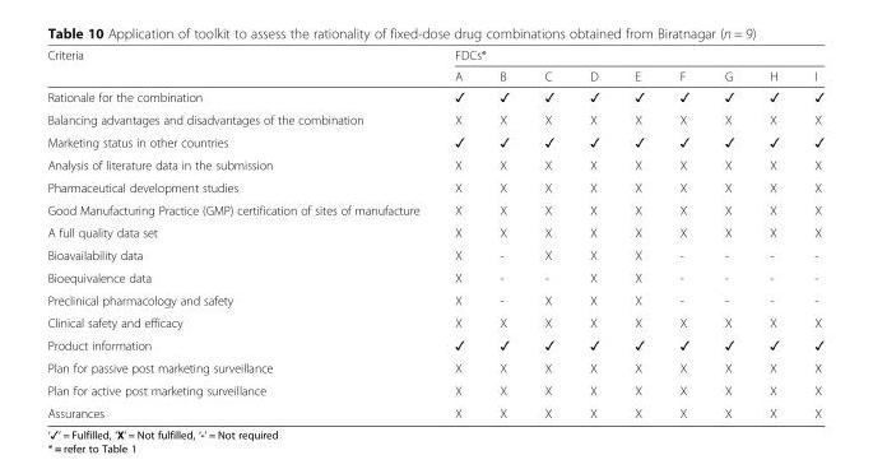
<table><thead><tr><td rowspan="2">Criteria</td><td colspan="9">FDCs*</td></tr><tr><td>A</td><td>B</td><td>C</td><td>D</td><td>E</td><td>F</td><td>G</td><td>H</td><td>I</td></tr></thead><tbody><tr><td>Rationale for the combination</td><td>✓</td><td>✓</td><td>✓</td><td>✓</td><td>✓</td><td>✓</td><td>✓</td><td>✓</td><td>✓</td></tr><tr><td>Balancing advantages and disadvantages of the combination</td><td>X</td><td>X</td><td>X</td><td>X</td><td>X</td><td>X</td><td>X</td><td>X</td><td>X</td></tr><tr><td>Marketing status in other countries</td><td>✓</td><td>✓</td><td>✓</td><td>✓</td><td>✓</td><td>✓</td><td>✓</td><td>✓</td><td>✓</td></tr><tr><td>Analysis of literature data in the submission</td><td>X</td><td>X</td><td>X</td><td>X</td><td>X</td><td>X</td><td>X</td><td>X</td><td>X</td></tr><tr><td>Pharmaceutical development studies</td><td>X</td><td>X</td><td>X</td><td>X</td><td>X</td><td>X</td><td>X</td><td>X</td><td>X</td></tr><tr><td>Good Manufacturing Practice (GMP) certification of sites of manufacture</td><td>X</td><td>X</td><td>X</td><td>X</td><td>X</td><td>X</td><td>X</td><td>X</td><td>X</td></tr><tr><td>A full quality data set</td><td>X</td><td>X</td><td>X</td><td>X</td><td>X</td><td>X</td><td>X</td><td>X</td><td>X</td></tr><tr><td>Bioavailability data</td><td>X</td><td>-</td><td>X</td><td>X</td><td>X</td><td>-</td><td>-</td><td>-</td><td>-</td></tr><tr><td>Bioequivalence data</td><td>X</td><td>-</td><td>-</td><td>X</td><td>X</td><td>-</td><td>-</td><td>-</td><td>-</td></tr><tr><td>Preclinical pharmacology and safety</td><td>X</td><td>-</td><td>X</td><td>X</td><td>X</td><td>-</td><td>-</td><td>-</td><td>-</td></tr><tr><td>Clinical safety and efficacy</td><td>X</td><td>X</td><td>X</td><td>X</td><td>X</td><td>X</td><td>X</td><td>X</td><td>X</td></tr><tr><td>Product information</td><td>✓</td><td>✓</td><td>✓</td><td>✓</td><td>✓</td><td>✓</td><td>✓</td><td>✓</td><td>✓</td></tr><tr><td>Plan for passive post marketing surveillance</td><td>X</td><td>X</td><td>X</td><td>X</td><td>X</td><td>X</td><td>X</td><td>X</td><td>X</td></tr><tr><td>Plan for active post marketing surveillance</td><td>X</td><td>X</td><td>X</td><td>X</td><td>X</td><td>X</td><td>X</td><td>X</td><td>X</td></tr><tr><td>Assurances</td><td>X</td><td>X</td><td>X</td><td>X</td><td>X</td><td>X</td><td>X</td><td>X</td><td>X</td></tr></tbody></table>